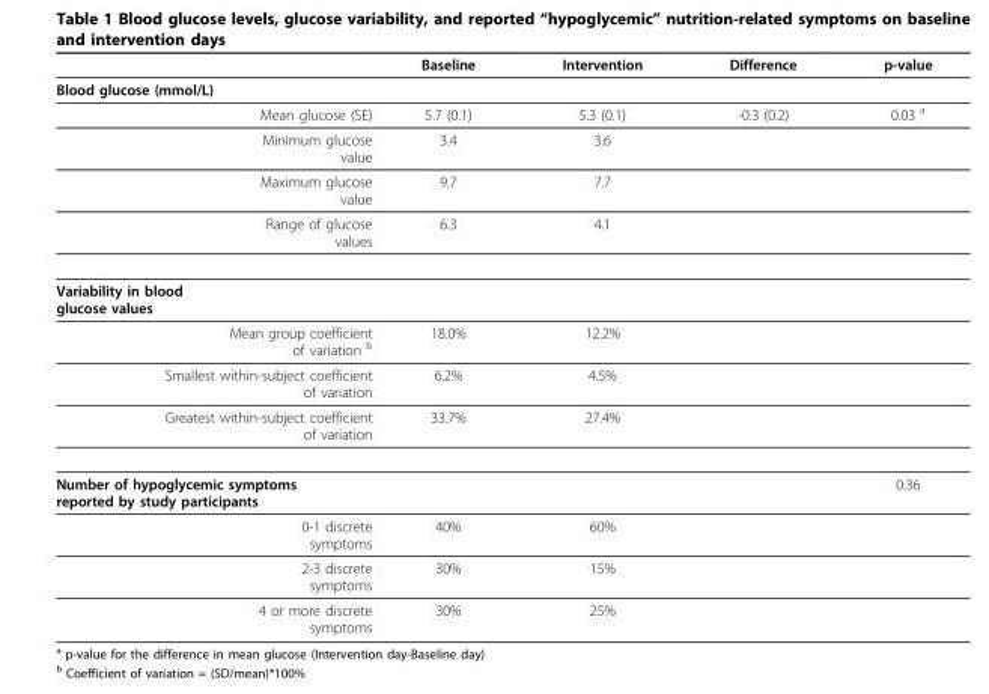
<table><thead><tr><td></td><td>Baseline</td><td>Intervention</td><td>Difference</td><td>p-value</td></tr></thead><tbody><tr><td colspan="5">Blood glucose (mmol/L)</td></tr><tr><td>Mean glucose (SE)</td><td>5.7 (0.1)</td><td>5.3 (0.1)</td><td>-0.3 (0.2)</td><td>0.03 a</td></tr><tr><td>Minimum glucose value</td><td>3.4</td><td>3.6</td><td></td><td></td></tr><tr><td>Maximum glucose value</td><td>9.7</td><td>7.7</td><td></td><td></td></tr><tr><td>Range of glucose values</td><td>6.3</td><td>4.1</td><td></td><td></td></tr><tr><td colspan="5">Variability in blood glucose values</td></tr><tr><td>Mean group coefficient of variation b</td><td>18.0%</td><td>12.2%</td><td></td><td></td></tr><tr><td>Smallest within-subject coefficient of variation</td><td>6.2%</td><td>4.5%</td><td></td><td></td></tr><tr><td>Greatest within-subject coefficient of variation</td><td>33.7%</td><td>27.4%</td><td></td><td></td></tr><tr><td>Number of hypoglycemic symptoms reported by study participants</td><td></td><td></td><td></td><td>0.36</td></tr><tr><td>0-1 discrete symptoms</td><td>40%</td><td>60%</td><td></td><td></td></tr><tr><td>2-3 discrete symptoms</td><td>30%</td><td>15%</td><td></td><td></td></tr><tr><td>4 or more discrete symptoms</td><td>30%</td><td>25%</td><td></td><td></td></tr></tbody></table>